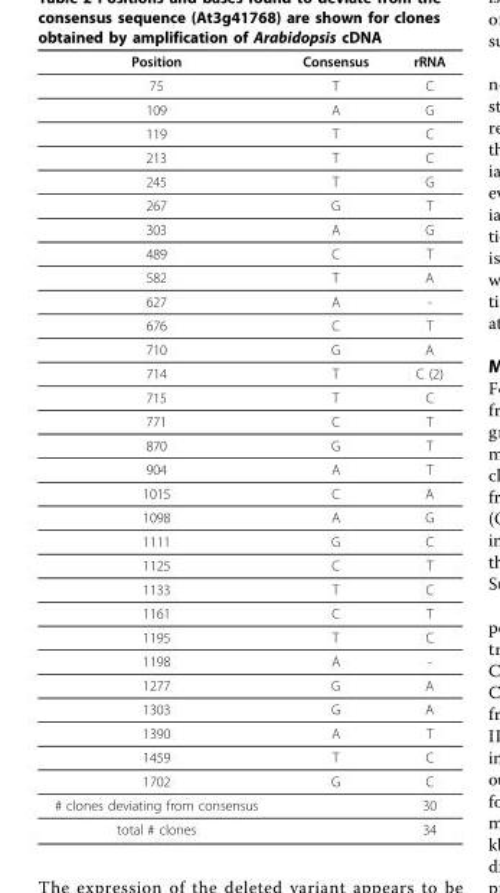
<table><thead><tr><td>Position</td><td>Consensus</td><td>rRNA</td></tr></thead><tbody><tr><td>75</td><td>T</td><td>C</td></tr><tr><td>109</td><td>A</td><td>G</td></tr><tr><td>119</td><td>T</td><td>C</td></tr><tr><td>213</td><td>T</td><td>C</td></tr><tr><td>245</td><td>T</td><td>G</td></tr><tr><td>267</td><td>G</td><td>T</td></tr><tr><td>303</td><td>A</td><td>G</td></tr><tr><td>489</td><td>C</td><td>T</td></tr><tr><td>582</td><td>T</td><td>A</td></tr><tr><td>627</td><td>A</td><td>-</td></tr><tr><td>676</td><td>C</td><td>T</td></tr><tr><td>710</td><td>G</td><td>A</td></tr><tr><td>714</td><td>T</td><td>C (2)</td></tr><tr><td>715</td><td>T</td><td>C</td></tr><tr><td>771</td><td>C</td><td>T</td></tr><tr><td>870</td><td>G</td><td>T</td></tr><tr><td>904</td><td>A</td><td>T</td></tr><tr><td>1015</td><td>C</td><td>A</td></tr><tr><td>1098</td><td>A</td><td>G</td></tr><tr><td>1111</td><td>G</td><td>C</td></tr><tr><td>1125</td><td>C</td><td>T</td></tr><tr><td>1133</td><td>T</td><td>C</td></tr><tr><td>1161</td><td>C</td><td>T</td></tr><tr><td>1195</td><td>T</td><td>C</td></tr><tr><td>1198</td><td>A</td><td>-</td></tr><tr><td>1277</td><td>G</td><td>A</td></tr><tr><td>1303</td><td>G</td><td>A</td></tr><tr><td>1390</td><td>A</td><td>T</td></tr><tr><td>1459</td><td>T</td><td>C</td></tr><tr><td>1702</td><td>G</td><td>C</td></tr><tr><td># clones deviating from consensus</td><td></td><td>30</td></tr><tr><td>total # clones</td><td></td><td>34</td></tr></tbody></table>